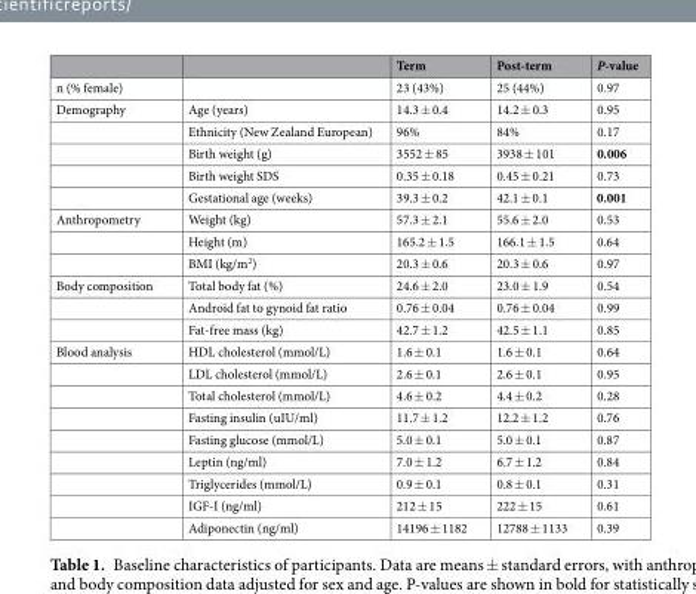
<table><thead><tr><td></td><td></td><td>Term</td><td>Post-term</td><td>P-value</td></tr></thead><tbody><tr><td>n (% female)</td><td></td><td>23 (43%)</td><td>25 (44%)</td><td>0.97</td></tr><tr><td rowspan="5">Demography</td><td>Age (years)</td><td>14.3 ± 0.4</td><td>14.2 ± 0.3</td><td>0.95</td></tr><tr><td>Ethnicity (New Zealand European)</td><td>96%</td><td>84%</td><td>0.17</td></tr><tr><td>Birth weight (g)</td><td>3552 ± 85</td><td>3938 ± 101</td><td>0.006</td></tr><tr><td>Birth weight SDS</td><td>0.35 ± 0.18</td><td>0.45 ± 0.21</td><td>0.73</td></tr><tr><td>Gestational age (weeks)</td><td>39.3 ± 0.2</td><td>42.1 ± 0.1</td><td>0.001</td></tr><tr><td rowspan="3">Anthropometry</td><td>Weight (kg)</td><td>57.3 ± 2.1</td><td>55.6 ± 2.0</td><td>0.53</td></tr><tr><td>Height (m)</td><td>165.2 ± 1.5</td><td>166.1 ± 1.5</td><td>0.64</td></tr><tr><td>BMI (kg/m<sup>2</sup>)</td><td>20.3 ± 0.6</td><td>20.3 ± 0.6</td><td>0.97</td></tr><tr><td rowspan="3">Body composition</td><td>Total body fat (%)</td><td>24.6 ± 2.0</td><td>23.0 ± 1.9</td><td>0.54</td></tr><tr><td>Android fat to gynoid fat ratio</td><td>0.76 ± 0.04</td><td>0.76 ± 0.04</td><td>0.99</td></tr><tr><td>Fat-free mass (kg)</td><td>42.7 ± 1.2</td><td>42.5 ± 1.1</td><td>0.85</td></tr><tr><td rowspan="9">Blood analysis</td><td>HDL cholesterol (mmol/L)</td><td>1.6 ± 0.1</td><td>1.6 ± 0.1</td><td>0.64</td></tr><tr><td>LDL cholesterol (mmol/L)</td><td>2.6 ± 0.1</td><td>2.6 ± 0.1</td><td>0.95</td></tr><tr><td>Total cholesterol (mmol/L)</td><td>4.6 ± 0.2</td><td>4.4 ± 0.2</td><td>0.28</td></tr><tr><td>Fasting insulin (uIU/ml)</td><td>11.7 ± 1.2</td><td>12.2 ± 1.2</td><td>0.76</td></tr><tr><td>Fasting glucose (mmol/L)</td><td>5.0 ± 0.1</td><td>5.0 ± 0.1</td><td>0.87</td></tr><tr><td>Leptin (ng/ml)</td><td>7.0 ± 1.2</td><td>6.7 ± 1.2</td><td>0.84</td></tr><tr><td>Triglycerides (mmol/L)</td><td>0.9 ± 0.1</td><td>0.8 ± 0.1</td><td>0.31</td></tr><tr><td>IGF-I (ng/ml)</td><td>212 ± 15</td><td>222 ± 15</td><td>0.61</td></tr><tr><td>Adiponectin (ng/ml)</td><td>14196 ± 1182</td><td>12788 ± 1133</td><td>0.39</td></tr></tbody></table>